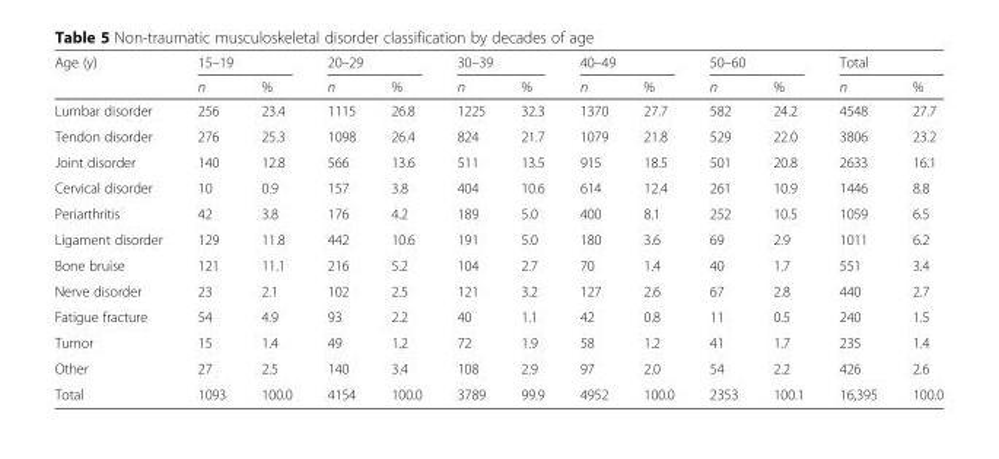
<table><thead><tr><td rowspan="2">Age (y)</td><td colspan="2">15–19</td><td colspan="2">20–29</td><td colspan="2">30–39</td><td colspan="2">40–49</td><td colspan="2">50–60</td><td colspan="2">Total</td></tr><tr><td>n</td><td>%</td><td>n</td><td>%</td><td>n</td><td>%</td><td>n</td><td>%</td><td>n</td><td>%</td><td>n</td><td>%</td></tr></thead><tbody><tr><td>Lumbar disorder</td><td>256</td><td>23.4</td><td>1115</td><td>26.8</td><td>1225</td><td>32.3</td><td>1370</td><td>27.7</td><td>582</td><td>24.2</td><td>4548</td><td>27.7</td></tr><tr><td>Tendon disorder</td><td>276</td><td>25.3</td><td>1098</td><td>26.4</td><td>824</td><td>21.7</td><td>1079</td><td>21.8</td><td>529</td><td>22.0</td><td>3806</td><td>23.2</td></tr><tr><td>Joint disorder</td><td>140</td><td>12.8</td><td>566</td><td>13.6</td><td>511</td><td>13.5</td><td>915</td><td>18.5</td><td>501</td><td>20.8</td><td>2633</td><td>16.1</td></tr><tr><td>Cervical disorder</td><td>10</td><td>0.9</td><td>157</td><td>3.8</td><td>404</td><td>10.6</td><td>614</td><td>12.4</td><td>261</td><td>10.9</td><td>1446</td><td>8.8</td></tr><tr><td>Periarthritis</td><td>42</td><td>3.8</td><td>176</td><td>4.2</td><td>189</td><td>5.0</td><td>400</td><td>8.1</td><td>252</td><td>10.5</td><td>1059</td><td>6.5</td></tr><tr><td>Ligament disorder</td><td>129</td><td>11.8</td><td>442</td><td>10.6</td><td>191</td><td>5.0</td><td>180</td><td>3.6</td><td>69</td><td>2.9</td><td>1011</td><td>6.2</td></tr><tr><td>Bone bruise</td><td>121</td><td>11.1</td><td>216</td><td>5.2</td><td>104</td><td>2.7</td><td>70</td><td>1.4</td><td>40</td><td>1.7</td><td>551</td><td>3.4</td></tr><tr><td>Nerve disorder</td><td>23</td><td>2.1</td><td>102</td><td>2.5</td><td>121</td><td>3.2</td><td>127</td><td>2.6</td><td>67</td><td>2.8</td><td>440</td><td>2.7</td></tr><tr><td>Fatigue fracture</td><td>54</td><td>4.9</td><td>93</td><td>2.2</td><td>40</td><td>1.1</td><td>42</td><td>0.8</td><td>11</td><td>0.5</td><td>240</td><td>1.5</td></tr><tr><td>Tumor</td><td>15</td><td>1.4</td><td>49</td><td>1.2</td><td>72</td><td>1.9</td><td>58</td><td>1.2</td><td>41</td><td>1.7</td><td>235</td><td>1.4</td></tr><tr><td>Other</td><td>27</td><td>2.5</td><td>140</td><td>3.4</td><td>108</td><td>2.9</td><td>97</td><td>2.0</td><td>54</td><td>2.2</td><td>426</td><td>2.6</td></tr><tr><td>Total</td><td>1093</td><td>100.0</td><td>4154</td><td>100.0</td><td>3789</td><td>99.9</td><td>4952</td><td>100.0</td><td>2353</td><td>100.1</td><td>16,395</td><td>100.0</td></tr></tbody></table>